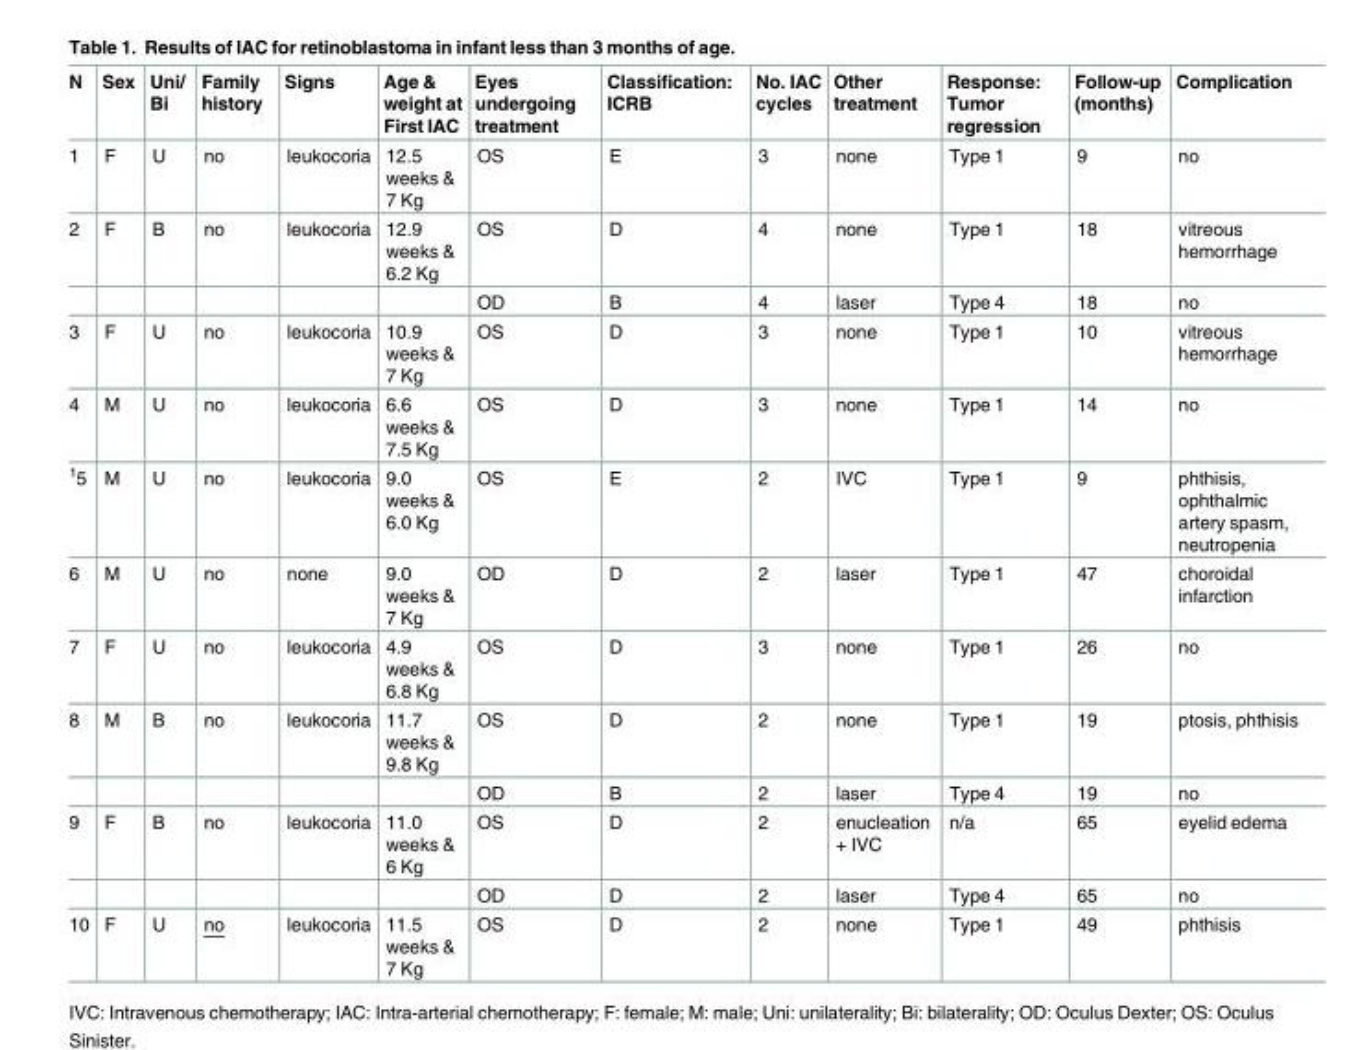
<table><thead><tr><td>N</td><td>Sex</td><td>Uni/ Bi</td><td>Family history</td><td>Signs</td><td>Age &amp; weight at First IAC</td><td>Eyes undergoing treatment</td><td>Classification: ICRB</td><td>No. IAC cycles</td><td>Other treatment</td><td>Response: Tumor regression</td><td>Follow-up (months)</td><td>Complication</td></tr></thead><tbody><tr><td>1</td><td>F</td><td>U</td><td>no</td><td>leukocoria</td><td>12.5 weeks &amp; 7 Kg</td><td>OS</td><td>E</td><td>3</td><td>none</td><td>Type 1</td><td>9</td><td>no</td></tr><tr><td rowspan="2">2</td><td>F</td><td>B</td><td>no</td><td>leukocoria</td><td>12.9 weeks &amp; 6.2 Kg</td><td>OS</td><td>D</td><td>4</td><td>none</td><td>Type 1</td><td>18</td><td>vitreous hemorrhage</td></tr><tr><td></td><td></td><td></td><td></td><td></td><td>OD</td><td>B</td><td>4</td><td>laser</td><td>Type 4</td><td>18</td><td>no</td></tr><tr><td>3</td><td>F</td><td>U</td><td>no</td><td>leukocoria</td><td>10.9 weeks &amp; 7 Kg</td><td>OS</td><td>D</td><td>3</td><td>none</td><td>Type 1</td><td>10</td><td>vitreous hemorrhage</td></tr><tr><td>4</td><td>M</td><td>U</td><td>no</td><td>leukocoria</td><td>6.6 weeks &amp; 7.5 Kg</td><td>OS</td><td>D</td><td>3</td><td>none</td><td>Type 1</td><td>14</td><td>no</td></tr><tr><td><sup>1</sup>5</td><td>M</td><td>U</td><td>no</td><td>leukocoria</td><td>9.0 weeks &amp; 6.0 Kg</td><td>OS</td><td>E</td><td>2</td><td>IVC</td><td>Type 1</td><td>9</td><td>phthisis, ophthalmic artery spasm, neutropenia</td></tr><tr><td>6</td><td>M</td><td>U</td><td>no</td><td>none</td><td>9.0 weeks &amp; 7 Kg</td><td>OD</td><td>D</td><td>2</td><td>laser</td><td>Type 1</td><td>47</td><td>choroidal infarction</td></tr><tr><td>7</td><td>F</td><td>U</td><td>no</td><td>leukocoria</td><td>4.9 weeks &amp; 6.8 Kg</td><td>OS</td><td>D</td><td>3</td><td>none</td><td>Type 1</td><td>26</td><td>no</td></tr><tr><td rowspan="2">8</td><td>M</td><td>B</td><td>no</td><td>leukocoria</td><td>11.7 weeks &amp; 9.8 Kg</td><td>OS</td><td>D</td><td>2</td><td>none</td><td>Type 1</td><td>19</td><td>ptosis, phthisis</td></tr><tr><td></td><td></td><td></td><td></td><td></td><td>OD</td><td>B</td><td>2</td><td>laser</td><td>Type 4</td><td>19</td><td>no</td></tr><tr><td rowspan="2">9</td><td>F</td><td>B</td><td>no</td><td>leukocoria</td><td>11.0 weeks &amp; 6 Kg</td><td>OS</td><td>D</td><td>2</td><td>enucleation + IVC</td><td>n/a</td><td>65</td><td>eyelid edema</td></tr><tr><td></td><td></td><td></td><td></td><td></td><td>OD</td><td>D</td><td>2</td><td>laser</td><td>Type 4</td><td>65</td><td>no</td></tr><tr><td>10</td><td>F</td><td>U</td><td>no</td><td>leukocoria</td><td>11.5 weeks &amp; 7 Kg</td><td>OS</td><td>D</td><td>2</td><td>none</td><td>Type 1</td><td>49</td><td>phthisis</td></tr></tbody></table>